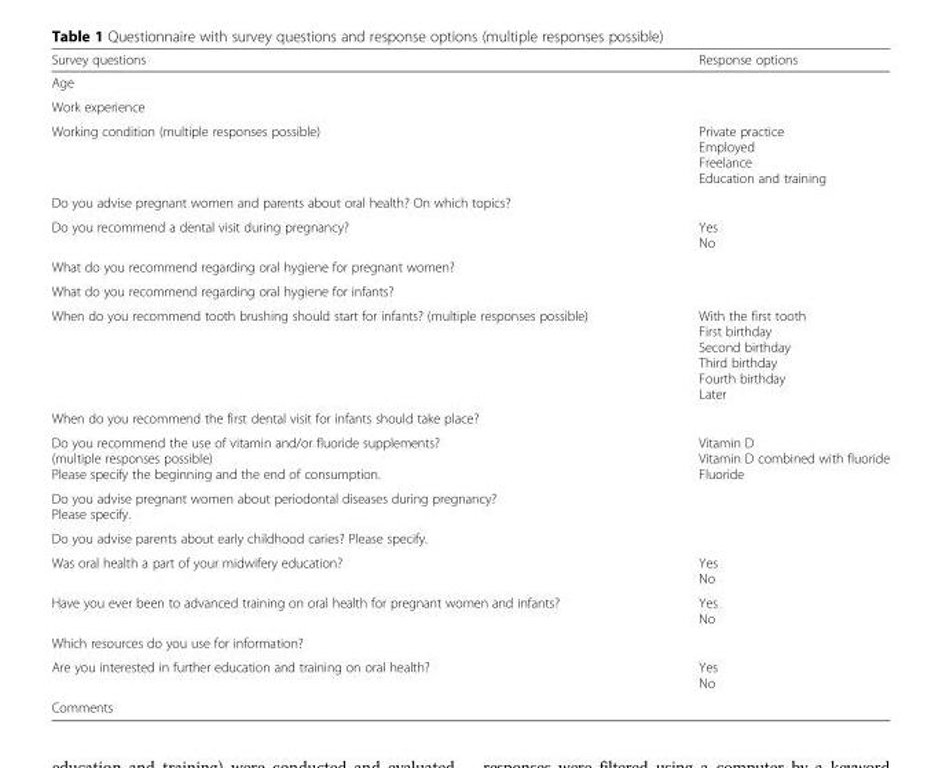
<table><thead><tr><td>Survey questions</td><td>Response options</td></tr></thead><tbody><tr><td colspan="2">Age</td></tr><tr><td colspan="2">Work experience</td></tr><tr><td>Working condition (multiple responses possible)</td><td>Private practice Employed Freelance Education and training</td></tr><tr><td colspan="2">Do you advise pregnant women and parents about oral health? On which topics?</td></tr><tr><td>Do you recommend a dental visit during pregnancy?</td><td>Yes No</td></tr><tr><td colspan="2">What do you recommend regarding oral hygiene for pregnant women?</td></tr><tr><td colspan="2">What do you recommend regarding oral hygiene for infants?</td></tr><tr><td>When do you recommend tooth brushing should start for infants? (multiple responses possible)</td><td>With the first tooth First birthday Second birthday Third birthday Fourth birthday Later</td></tr><tr><td colspan="2">When do you recommend the first dental visit for infants should take place?</td></tr><tr><td>Do you recommend the use of vitamin and/or fluoride supplements? (multiple responses possible) Please specify the beginning and the end of consumption.</td><td>Vitamin D Vitamin D combined with fluoride Fluoride</td></tr><tr><td colspan="2">Do you advise pregnant women about periodontal diseases during pregnancy? Please specify.</td></tr><tr><td colspan="2">Do you advise parents about early childhood caries? Please specify.</td></tr><tr><td>Was oral health a part of your midwifery education?</td><td>Yes No</td></tr><tr><td>Have you ever been to advanced training on oral health for pregnant women and infants?</td><td>Yes No</td></tr><tr><td colspan="2">Which resources do you use for information?</td></tr><tr><td>Are you interested in further education and training on oral health?</td><td>Yes No</td></tr><tr><td>Comments</td><td></td></tr></tbody></table>